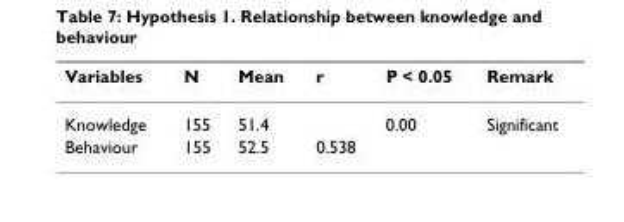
<table><thead><tr><td>Variables</td><td>N</td><td>Mean</td><td>r</td><td>P &lt; 0.05</td><td>Remark</td></tr></thead><tbody><tr><td>Knowledge</td><td>155</td><td>51.4</td><td></td><td>0.00</td><td>Significant</td></tr><tr><td>Behaviour</td><td>155</td><td>52.5</td><td>0.538</td><td></td><td></td></tr></tbody></table>